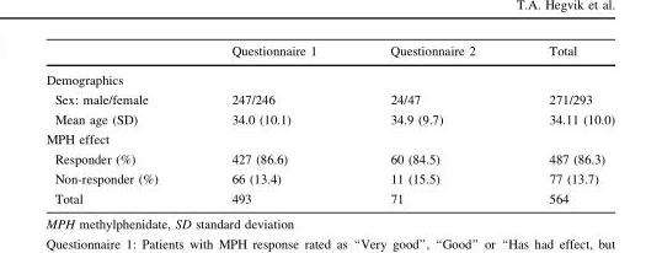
<table><thead><tr><td></td><td>Questionnaire 1</td><td>Questionnaire 2</td><td>Total</td></tr></thead><tbody><tr><td colspan="4">Demographics</td></tr><tr><td>Sex: male/female</td><td>247/246</td><td>24/47</td><td>271/293</td></tr><tr><td>Mean age (SD)</td><td>34.0 (10.1)</td><td>34.9 (9.7)</td><td>34.11 (10.0)</td></tr><tr><td colspan="4">MPH effect</td></tr><tr><td>Responder (%)</td><td>427 (86.6)</td><td>60 (84.5)</td><td>487 (86.3)</td></tr><tr><td>Non-responder (%)</td><td>66 (13.4)</td><td>11 (15.5)</td><td>77 (13.7)</td></tr><tr><td>Total</td><td>493</td><td>71</td><td>564</td></tr></tbody></table>